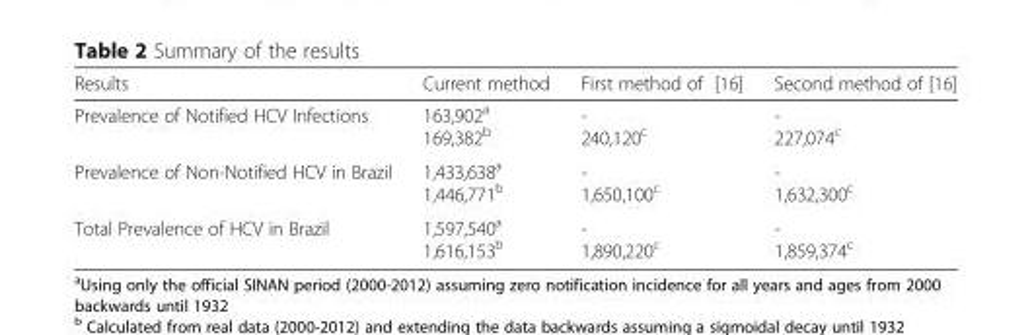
<table><thead><tr><td>Results</td><td>Current method</td><td>First method of [16]</td><td>Second method of [16]</td></tr></thead><tbody><tr><td>Prevalence of Notified HCV Infections</td><td>163,902<sup>a</sup> 169,382<sup>b</sup></td><td>- 240,120<sup>c</sup></td><td>- 227,074<sup>c</sup></td></tr><tr><td>Prevalence of Non-Notified HCV in Brazil</td><td>1,433,638<sup>a</sup> 1,446,771<sup>b</sup></td><td>- 1,650,100<sup>c</sup></td><td>- 1,632,300<sup>c</sup></td></tr><tr><td>Total Prevalence of HCV in Brazil</td><td>1,597,540<sup>a</sup> 1,616,153<sup>b</sup></td><td>- 1,890,220<sup>c</sup></td><td>- 1,859,374<sup>c</sup></td></tr></tbody></table>